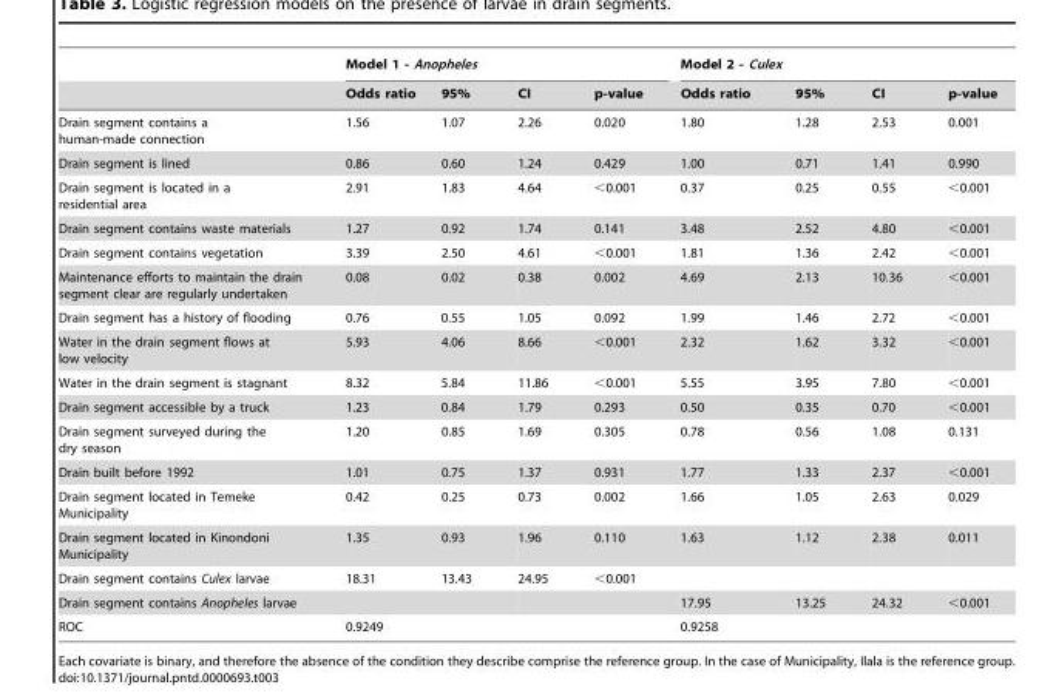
<table><thead><tr><td rowspan="2"></td><td colspan="4">Model 1 - Anopheles</td><td colspan="4">Model 2 - Culex</td></tr><tr><td>Odds ratio</td><td>95%</td><td>CI</td><td>p-value</td><td>Odds ratio</td><td>95%</td><td>CI</td><td>p-value</td></tr></thead><tbody><tr><td>Drain segment contains a human-made connection</td><td>1.56</td><td>1.07</td><td>2.26</td><td>0.020</td><td>1.80</td><td>1.28</td><td>2.53</td><td>0.001</td></tr><tr><td>Drain segment is lined</td><td>0.86</td><td>0.60</td><td>1.24</td><td>0.429</td><td>1.00</td><td>0.71</td><td>1.41</td><td>0.990</td></tr><tr><td>Drain segment is located in a residential area</td><td>2.91</td><td>1.83</td><td>4.64</td><td>&lt;0.001</td><td>0.37</td><td>0.25</td><td>0.55</td><td>&lt;0.001</td></tr><tr><td>Drain segment contains waste materials</td><td>1.27</td><td>0.92</td><td>1.74</td><td>0.141</td><td>3.48</td><td>2.52</td><td>4.80</td><td>&lt;0.001</td></tr><tr><td>Drain segment contains vegetation</td><td>3.39</td><td>2.50</td><td>4.61</td><td>&lt;0.001</td><td>1.81</td><td>1.36</td><td>2.42</td><td>&lt;0.001</td></tr><tr><td>Maintenance efforts to maintain the drain segment clear are regularly undertaken</td><td>0.08</td><td>0.02</td><td>0.38</td><td>0.002</td><td>4.69</td><td>2.13</td><td>10.36</td><td>&lt;0.001</td></tr><tr><td>Drain segment has a history of flooding</td><td>0.76</td><td>0.55</td><td>1.05</td><td>0.092</td><td>1.99</td><td>1.46</td><td>2.72</td><td>&lt;0.001</td></tr><tr><td>Water in the drain segment flows at low velocity</td><td>5.93</td><td>4.06</td><td>8.66</td><td>&lt;0.001</td><td>2.32</td><td>1.62</td><td>3.32</td><td>&lt;0.001</td></tr><tr><td>Water in the drain segment is stagnant</td><td>8.32</td><td>5.84</td><td>11.86</td><td>&lt;0.001</td><td>5.55</td><td>3.95</td><td>7.80</td><td>&lt;0.001</td></tr><tr><td>Drain segment accessible by a truck</td><td>1.23</td><td>0.84</td><td>1.79</td><td>0.293</td><td>0.50</td><td>0.35</td><td>0.70</td><td>&lt;0.001</td></tr><tr><td>Drain segment surveyed during the dry season</td><td>1.20</td><td>0.85</td><td>1.69</td><td>0.305</td><td>0.78</td><td>0.56</td><td>1.08</td><td>0.131</td></tr><tr><td>Drain built before 1992</td><td>1.01</td><td>0.75</td><td>1.37</td><td>0.931</td><td>1.77</td><td>1.33</td><td>2.37</td><td>&lt;0.001</td></tr><tr><td>Drain segment located in Temeke Municipality</td><td>0.42</td><td>0.25</td><td>0.73</td><td>0.002</td><td>1.66</td><td>1.05</td><td>2.63</td><td>0.029</td></tr><tr><td>Drain segment located in Kinondoni Municipality</td><td>1.35</td><td>0.93</td><td>1.96</td><td>0.110</td><td>1.63</td><td>1.12</td><td>2.38</td><td>0.011</td></tr><tr><td>Drain segment contains Culex larvae</td><td>18.31</td><td>13.43</td><td>24.95</td><td>&lt;0.001</td><td></td><td></td><td></td><td></td></tr><tr><td>Drain segment contains Anopheles larvae</td><td></td><td></td><td></td><td></td><td>17.95</td><td>13.25</td><td>24.32</td><td>&lt;0.001</td></tr><tr><td>ROC</td><td>0.9249</td><td></td><td></td><td></td><td>0.9258</td><td></td><td></td><td></td></tr></tbody></table>